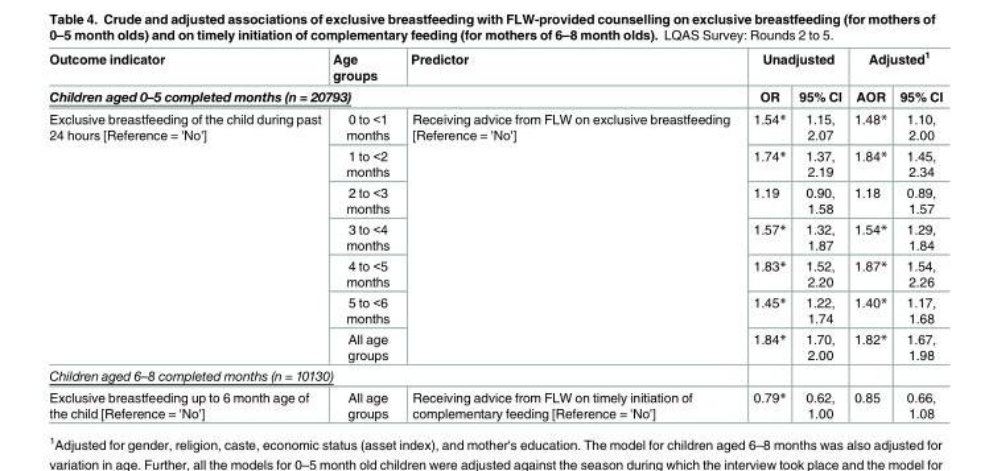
<table><thead><tr><td>Outcome indicator</td><td>Age groups</td><td>Predictor</td><td colspan="2">Unadjusted</td><td colspan="2">Adjusted<sup>1</sup></td></tr><tr><td colspan="3">Children aged 0–5 completed months (n = 20793)</td><td>OR</td><td>95% CI</td><td>AOR</td><td>95% CI</td></tr></thead><tbody><tr><td rowspan="7">Exclusive breastfeeding of the child during past 24 hours [Reference = &#x27;No&#x27;]</td><td>0 to &lt;1 months</td><td rowspan="7">Receiving advice from FLW on exclusive breastfeeding [Reference = &#x27;No&#x27;]</td><td>1.54*</td><td>1.15, 2.07</td><td>1.48*</td><td>1.10, 2.00</td></tr><tr><td>1 to &lt;2 months</td><td>1.74*</td><td>1.37, 2.19</td><td>1.84*</td><td>1.45, 2.34</td></tr><tr><td>2 to &lt;3 months</td><td>1.19</td><td>0.90, 1.58</td><td>1.18</td><td>0.89, 1.57</td></tr><tr><td>3 to &lt;4 months</td><td>1.57*</td><td>1.32, 1.87</td><td>1.54*</td><td>1.29, 1.84</td></tr><tr><td>4 to &lt;5 months</td><td>1.83*</td><td>1.52, 2.20</td><td>1.87*</td><td>1.54, 2.26</td></tr><tr><td>5 to &lt;6 months</td><td>1.45*</td><td>1.22, 1.74</td><td>1.40*</td><td>1.17, 1.68</td></tr><tr><td>All age groups</td><td>1.84*</td><td>1.70, 2.00</td><td>1.82*</td><td>1.67, 1.98</td></tr><tr><td colspan="7">Children aged 6–8 completed months (n = 10130)</td></tr><tr><td>Exclusive breastfeeding up to 6 month age of the child [Reference = &#x27;No&#x27;]</td><td>All age groups</td><td>Receiving advice from FLW on timely initiation of complementary feeding [Reference = &#x27;No&#x27;]</td><td>0.79*</td><td>0.62, 1.00</td><td>0.85</td><td>0.66, 1.08</td></tr></tbody></table>